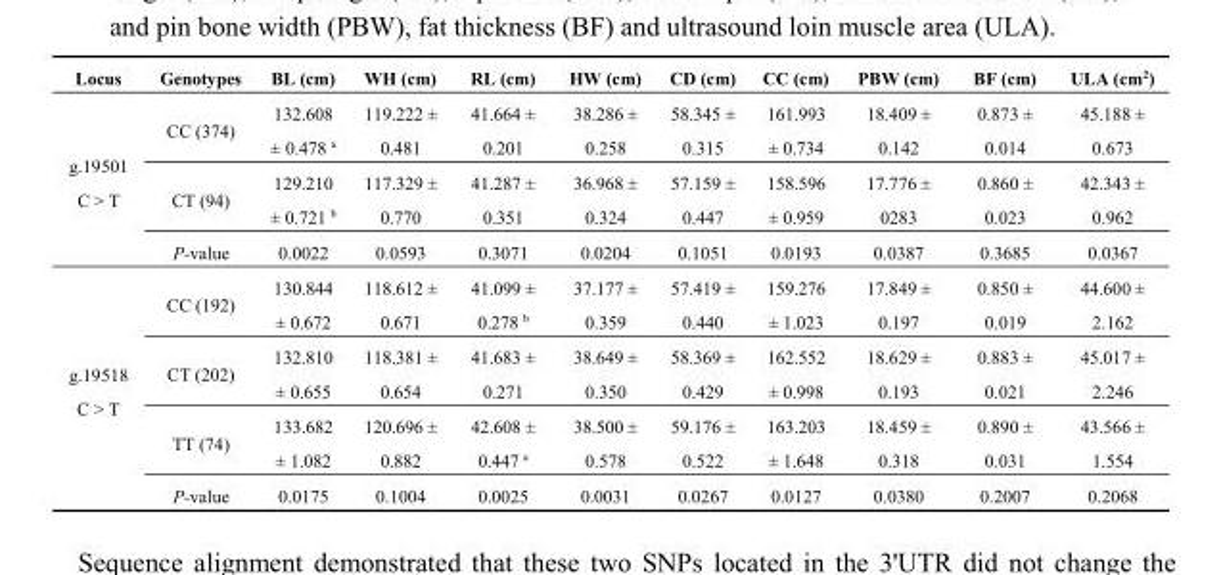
<table><thead><tr><td>Locus</td><td>Genotypes</td><td>BL (cm)</td><td>WH (cm)</td><td>RL (cm)</td><td>HW (cm)</td><td>CD (cm)</td><td>CC (cm)</td><td>PBW (cm)</td><td>BF (cm)</td><td>ULA (cm<sup>2</sup>)</td></tr></thead><tbody><tr><td rowspan="3">g.19501 C &gt; T</td><td>CC (374)</td><td>132.608 ± 0.478 <sup>a</sup></td><td>119.222 ± 0.481</td><td>41.664 ± 0.201</td><td>38.286 ± 0.258</td><td>58.345 ± 0.315</td><td>161.993 ± 0.734</td><td>18.409 ± 0.142</td><td>0.873 ± 0.014</td><td>45.188 ± 0.673</td></tr><tr><td>CT (94)</td><td>129.210 ± 0.721 <sup>b</sup></td><td>117.329 ± 0.770</td><td>41.287 ± 0.351</td><td>36.968 ± 0.324</td><td>57.159 ± 0.447</td><td>158.596 ± 0.959</td><td>17.776 ± 0283</td><td>0.860 ± 0.023</td><td>42.343 ± 0.962</td></tr><tr><td>P-value</td><td>0.0022</td><td>0.0593</td><td>0.3071</td><td>0.0204</td><td>0.1051</td><td>0.0193</td><td>0.0387</td><td>0.3685</td><td>0.0367</td></tr><tr><td rowspan="4">g.19518 C &gt; T</td><td>CC (192)</td><td>130.844 ± 0.672</td><td>118.612 ± 0.671</td><td>41.099 ± 0.278 <sup>b</sup></td><td>37.177 ± 0.359</td><td>57.419 ± 0.440</td><td>159.276 ± 1.023</td><td>17.849 ± 0.197</td><td>0.850 ± 0.019</td><td>44.600 ± 2.162</td></tr><tr><td>CT (202)</td><td>132.810 ± 0.655</td><td>118.381 ± 0.654</td><td>41.683 ± 0.271</td><td>38.649 ± 0.350</td><td>58.369 ± 0.429</td><td>162.552 ± 0.998</td><td>18.629 ± 0.193</td><td>0.883 ± 0.021</td><td>45.017 ± 2.246</td></tr><tr><td>TT (74)</td><td>133.682 ± 1.082</td><td>120.696 ± 0.882</td><td>42.608 ± 0.447 <sup>a</sup></td><td>38.500 ± 0.578</td><td>59.176 ± 0.522</td><td>163.203 ± 1.648</td><td>18.459 ± 0.318</td><td>0.890 ± 0.031</td><td>43.566 ± 1.554</td></tr><tr><td>P-value</td><td>0.0175</td><td>0.1004</td><td>0.0025</td><td>0.0031</td><td>0.0267</td><td>0.0127</td><td>0.0380</td><td>0.2007</td><td>0.2068</td></tr></tbody></table>